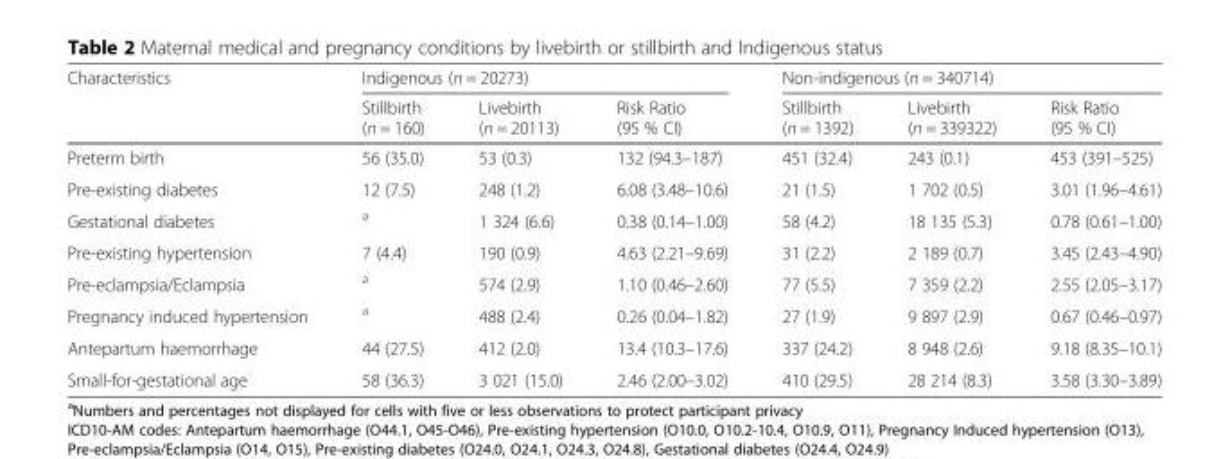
<table><thead><tr><td rowspan="2">Characteristics</td><td colspan="3">Indigenous (n = 20273)</td><td colspan="3">Non-indigenous (n = 340714)</td></tr><tr><td>Stillbirth (n = 160)</td><td>Livebirth (n = 20113)</td><td>Risk Ratio (95 % CI)</td><td>Stillbirth (n = 1392)</td><td>Livebirth (n = 339322)</td><td>Risk Ratio (95 % CI)</td></tr></thead><tbody><tr><td>Preterm birth</td><td>56 (35.0)</td><td>53 (0.3)</td><td>132 (94.3–187)</td><td>451 (32.4)</td><td>243 (0.1)</td><td>453 (391–525)</td></tr><tr><td>Pre-existing diabetes</td><td>12 (7.5)</td><td>248 (1.2)</td><td>6.08 (3.48–10.6)</td><td>21 (1.5)</td><td>1 702 (0.5)</td><td>3.01 (1.96–4.61)</td></tr><tr><td>Gestational diabetes</td><td><sup>a</sup></td><td>1 324 (6.6)</td><td>0.38 (0.14–1.00)</td><td>58 (4.2)</td><td>18 135 (5.3)</td><td>0.78 (0.61–1.00)</td></tr><tr><td>Pre-existing hypertension</td><td>7 (4.4)</td><td>190 (0.9)</td><td>4.63 (2.21–9.69)</td><td>31 (2.2)</td><td>2 189 (0.7)</td><td>3.45 (2.43–4.90)</td></tr><tr><td>Pre-eclampsia/Eclampsia</td><td><sup>a</sup></td><td>574 (2.9)</td><td>1.10 (0.46–2.60)</td><td>77 (5.5)</td><td>7 359 (2.2)</td><td>2.55 (2.05–3.17)</td></tr><tr><td>Pregnancy induced hypertension</td><td><sup>a</sup></td><td>488 (2.4)</td><td>0.26 (0.04–1.82)</td><td>27 (1.9)</td><td>9 897 (2.9)</td><td>0.67 (0.46–0.97)</td></tr><tr><td>Antepartum haemorrhage</td><td>44 (27.5)</td><td>412 (2.0)</td><td>13.4 (10.3–17.6)</td><td>337 (24.2)</td><td>8 948 (2.6)</td><td>9.18 (8.35–10.1)</td></tr><tr><td>Small-for-gestational age</td><td>58 (36.3)</td><td>3 021 (15.0)</td><td>2.46 (2.00–3.02)</td><td>410 (29.5)</td><td>28 214 (8.3)</td><td>3.58 (3.30–3.89)</td></tr></tbody></table>